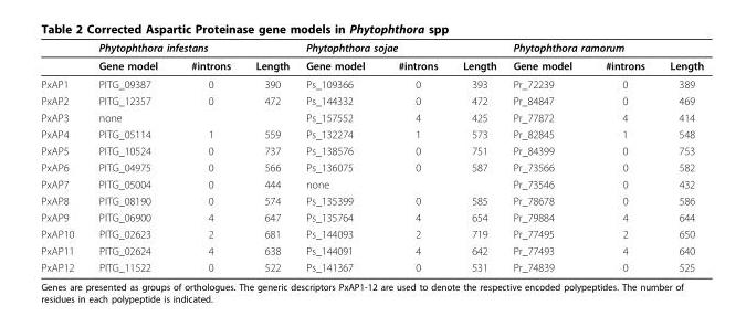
<table><thead><tr><td rowspan="2"></td><td colspan="3">Phytophthora infestans</td><td colspan="3">Phytophthora sojae</td><td colspan="3">Phytophthora ramorum</td></tr><tr><td>Gene model</td><td>#introns</td><td>Length</td><td>Gene model</td><td>#introns</td><td>Length</td><td>Gene model</td><td>#introns</td><td>Length</td></tr></thead><tbody><tr><td>PxAP1</td><td>PITG_09387</td><td>0</td><td>390</td><td>Ps_109366</td><td>0</td><td>393</td><td>Pr_72239</td><td>0</td><td>389</td></tr><tr><td>PxAP2</td><td>PITG_12357</td><td>0</td><td>472</td><td>Ps_144332</td><td>0</td><td>472</td><td>Pr_84847</td><td>0</td><td>469</td></tr><tr><td>PxAP3</td><td colspan="3">none</td><td>Ps_157552</td><td>4</td><td>425</td><td>Pr_77872</td><td>4</td><td>414</td></tr><tr><td>PxAP4</td><td>PITG_05114</td><td>1</td><td>559</td><td>Ps_132274</td><td>1</td><td>573</td><td>Pr_82845</td><td>1</td><td>548</td></tr><tr><td>PxAP5</td><td>PITG_10524</td><td>0</td><td>737</td><td>Ps_138576</td><td>0</td><td>751</td><td>Pr_84399</td><td>0</td><td>753</td></tr><tr><td>PxAP6</td><td>PITG_04975</td><td>0</td><td>566</td><td>Ps_136075</td><td>0</td><td>587</td><td>Pr_73566</td><td>0</td><td>582</td></tr><tr><td>PxAP7</td><td>PITG_05004</td><td>0</td><td>444</td><td colspan="3">none</td><td>Pr_73546</td><td>0</td><td>432</td></tr><tr><td>PxAP8</td><td>PITG_08190</td><td>0</td><td>574</td><td>Ps_135399</td><td>0</td><td>585</td><td>Pr_78678</td><td>0</td><td>586</td></tr><tr><td>PxAP9</td><td>PITG_06900</td><td>4</td><td>647</td><td>Ps_135764</td><td>4</td><td>654</td><td>Pr_79884</td><td>4</td><td>644</td></tr><tr><td>PxAP10</td><td>PITG_02623</td><td>2</td><td>681</td><td>Ps_144093</td><td>2</td><td>719</td><td>Pr_77495</td><td>2</td><td>650</td></tr><tr><td>PxAP11</td><td>PITG_02624</td><td>4</td><td>638</td><td>Ps_144091</td><td>4</td><td>642</td><td>Pr_77493</td><td>4</td><td>640</td></tr><tr><td>PxAP12</td><td>PITG_11522</td><td>0</td><td>522</td><td>Ps_141367</td><td>0</td><td>531</td><td>Pr_74839</td><td>0</td><td>525</td></tr></tbody></table>